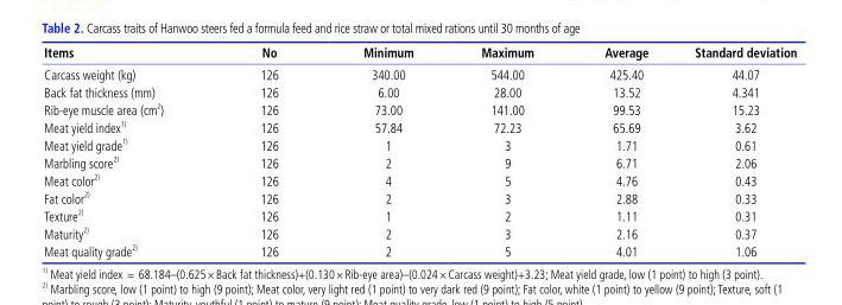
<table><thead><tr><td>Items</td><td>No</td><td>Minimum</td><td>Maximum</td><td>Average</td><td>Standard deviation</td></tr></thead><tbody><tr><td>Carcass weight (kg)</td><td>126</td><td>340.00</td><td>544.00</td><td>425.40</td><td>44.07</td></tr><tr><td>Back fat thickness (mm)</td><td>126</td><td>6.00</td><td>28.00</td><td>13.52</td><td>4.341</td></tr><tr><td>Rib-eye muscle area (cm <sup>2</sup>)</td><td>126</td><td>73.00</td><td>141.00</td><td>99.53</td><td>15.23</td></tr><tr><td>Meat yield index 1)</td><td>126</td><td>57.84</td><td>72.23</td><td>65.69</td><td>3.62</td></tr><tr><td>Meat yield grade 1)</td><td>126</td><td>1</td><td>3</td><td>1.71</td><td>0.61</td></tr><tr><td>Marbling score 2)</td><td>126</td><td>2</td><td>9</td><td>6.71</td><td>2.06</td></tr><tr><td>Meat color 2)</td><td>126</td><td>4</td><td>5</td><td>4.76</td><td>0.43</td></tr><tr><td>Fat color 2)</td><td>126</td><td>2</td><td>3</td><td>2.88</td><td>0.33</td></tr><tr><td>Texture 2)</td><td>126</td><td>1</td><td>2</td><td>1.11</td><td>0.31</td></tr><tr><td>Maturity 2)</td><td>126</td><td>2</td><td>3</td><td>2.16</td><td>0.37</td></tr><tr><td>Meat quality grade 2)</td><td>126</td><td>2</td><td>5</td><td>4.01</td><td>1.06</td></tr></tbody></table>